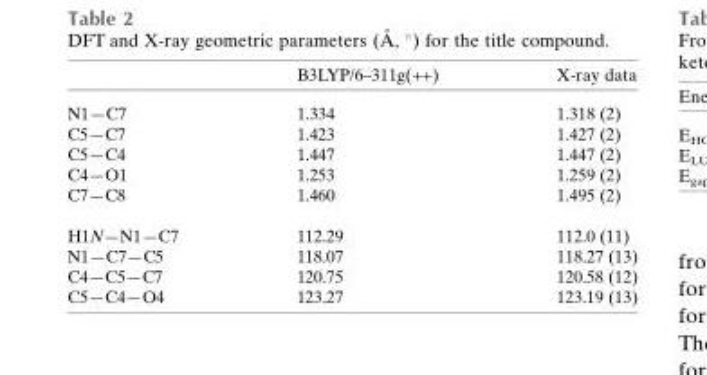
<table><thead><tr><td></td><td>B3LYP/6–311g(++)</td><td>X-ray data</td></tr></thead><tbody><tr><td>N1—C7</td><td>1.334</td><td>1.318 (2)</td></tr><tr><td>C5—C7</td><td>1.423</td><td>1.427 (2)</td></tr><tr><td>C5—C4</td><td>1.447</td><td>1.447 (2)</td></tr><tr><td>C4—O1</td><td>1.253</td><td>1.259 (2)</td></tr><tr><td>C7—C8</td><td>1.460</td><td>1.495 (2)</td></tr><tr><td>H1N—N1—C7</td><td>112.29</td><td>112.0 (11)</td></tr><tr><td>N1—C7—C5</td><td>118.07</td><td>118.27 (13)</td></tr><tr><td>C4—C5—C7</td><td>120.75</td><td>120.58 (12)</td></tr><tr><td>C5—C4—O4</td><td>123.27</td><td>123.19 (13)</td></tr></tbody></table>